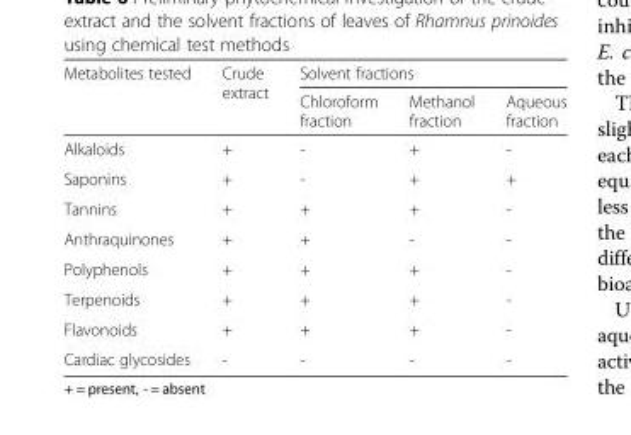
<table><thead><tr><td rowspan="2">Metabolites tested</td><td rowspan="2">Crude extract</td><td colspan="3">Solvent fractions</td></tr><tr><td>Chloroform fraction</td><td>Methanol fraction</td><td>Aqueous fraction</td></tr></thead><tbody><tr><td>Alkaloids</td><td>+</td><td>-</td><td>+</td><td>-</td></tr><tr><td>Saponins</td><td>+</td><td>-</td><td>+</td><td>+</td></tr><tr><td>Tannins</td><td>+</td><td>+</td><td>+</td><td>-</td></tr><tr><td>Anthraquinones</td><td>+</td><td>+</td><td>-</td><td>-</td></tr><tr><td>Polyphenols</td><td>+</td><td>+</td><td>+</td><td>-</td></tr><tr><td>Terpenoids</td><td>+</td><td>+</td><td>+</td><td>-</td></tr><tr><td>Flavonoids</td><td>+</td><td>+</td><td>+</td><td>-</td></tr><tr><td>Cardiac glycosides</td><td>-</td><td>-</td><td>-</td><td>-</td></tr></tbody></table>